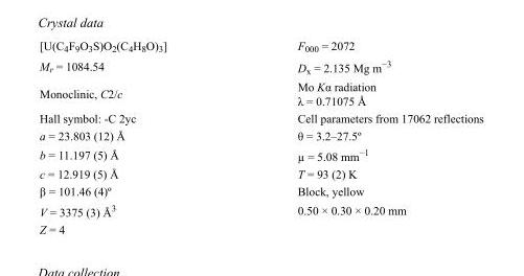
<table><tbody><tr><td>[U(C<sub>4</sub>F<sub>9</sub>O<sub>3</sub>S)O<sub>2</sub>(C<sub>4</sub>H<sub>8</sub>O)<sub>3</sub>]</td><td>F<sub>000</sub> = 2072</td></tr><tr><td>M<sub>r</sub> = 1084.54</td><td>D<sub>x</sub> = 2.135 Mg m<sup>−3</sup></td></tr><tr><td>Monoclinic, C2/c</td><td>Mo Kα radiation λ = 0.71075 Å</td></tr><tr><td>Hall symbol: -C 2yc</td><td>Cell parameters from 17062 reflections</td></tr><tr><td>a = 23.803 (12) Å</td><td>θ = 3.2–27.5º</td></tr><tr><td>b = 11.197 (5) Å</td><td>µ = 5.08 mm<sup>−1</sup></td></tr><tr><td>c = 12.919 (5) Å</td><td>T = 93 (2) K</td></tr><tr><td>β = 101.46 (4)º</td><td>Block, yellow</td></tr><tr><td>V = 3375 (3) Å<sup>3</sup></td><td>0.50 × 0.30 × 0.20 mm</td></tr><tr><td>Z = 4</td><td></td></tr></tbody></table>